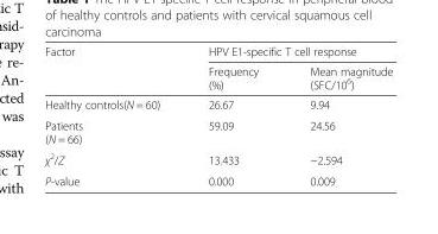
<table><thead><tr><td rowspan="2">Factor</td><td colspan="2">HPV E1-specific T cell response</td></tr><tr><td>Frequency (%)</td><td>Mean magnitude (SFC/10<sup>6</sup>)</td></tr></thead><tbody><tr><td>Healthy controls(N = 60)</td><td>26.67</td><td>9.94</td></tr><tr><td>Patients (N = 66)</td><td>59.09</td><td>24.56</td></tr><tr><td>χ<sup>2</sup>/Z</td><td>13.433</td><td>−2.594</td></tr><tr><td>P-value</td><td>0.000</td><td>0.009</td></tr></tbody></table>